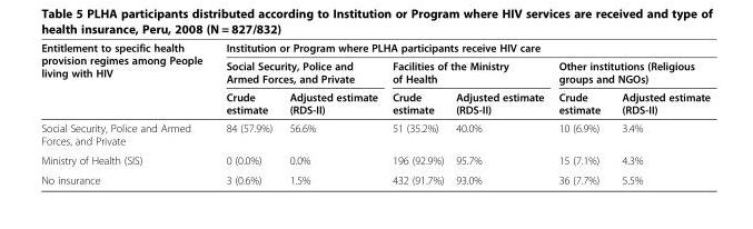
<table><thead><tr><td rowspan="3">Entitlement to specific health provision regimes among People living with HIV</td><td colspan="6">Institution or Program where PLHA participants receive HIV care</td></tr><tr><td colspan="2">Social Security, Police and Armed Forces, and Private</td><td colspan="2">Facilities of the Ministry of Health</td><td colspan="2">Other institutions (Religious groups and NGOs)</td></tr><tr><td>Crude estimate</td><td>Adjusted estimate (RDS-II)</td><td>Crude estimate</td><td>Adjusted estimate (RDS-II)</td><td>Crude estimate</td><td>Adjusted estimate (RDS-II)</td></tr></thead><tbody><tr><td>Social Security, Police and Armed Forces, and Private</td><td>84 (57.9%)</td><td>56.6%</td><td>51 (35.2%)</td><td>40.0%</td><td>10 (6.9%)</td><td>3.4%</td></tr><tr><td>Ministry of Health (SIS)</td><td>0 (0.0%)</td><td>0.0%</td><td>196 (92.9%)</td><td>95.7%</td><td>15 (7.1%)</td><td>4.3%</td></tr><tr><td>No insurance</td><td>3 (0.6%)</td><td>1.5%</td><td>432 (91.7%)</td><td>93.0%</td><td>36 (7.7%)</td><td>5.5%</td></tr></tbody></table>